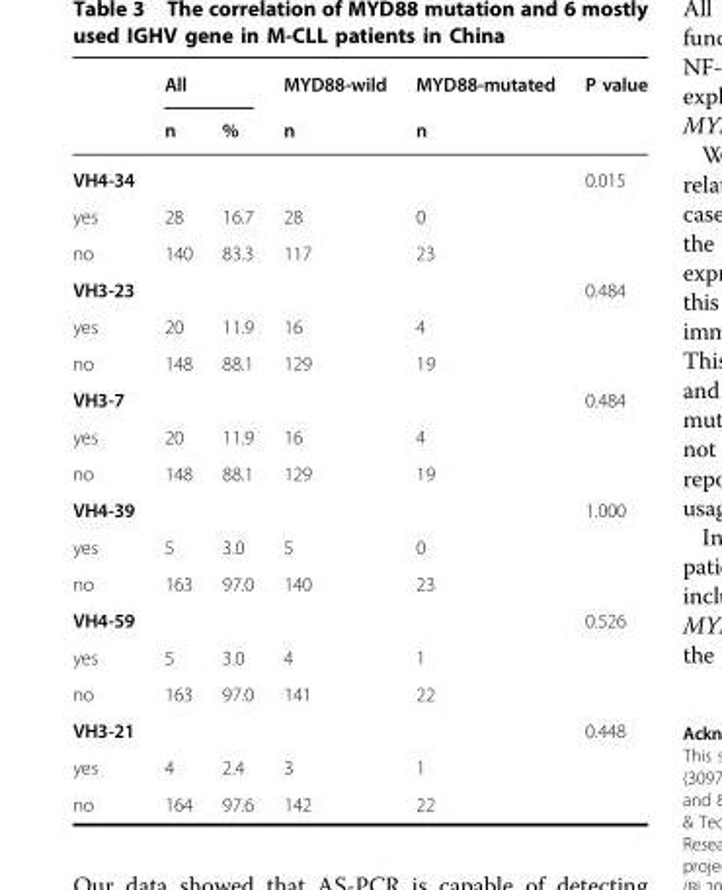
<table><thead><tr><td rowspan="2"></td><td colspan="2">All</td><td rowspan="2">MYD88-wild n</td><td rowspan="2">MYD88-mutated n</td><td rowspan="2">P value</td></tr><tr><td>n</td><td>%</td></tr></thead><tbody><tr><td>VH4-34</td><td></td><td></td><td></td><td></td><td>0.015</td></tr><tr><td>yes</td><td>28</td><td>16.7</td><td>28</td><td>0</td><td></td></tr><tr><td>no</td><td>140</td><td>83.3</td><td>117</td><td>23</td><td></td></tr><tr><td>VH3-23</td><td></td><td></td><td></td><td></td><td>0.484</td></tr><tr><td>yes</td><td>20</td><td>11.9</td><td>16</td><td>4</td><td></td></tr><tr><td>no</td><td>148</td><td>88.1</td><td>129</td><td>19</td><td></td></tr><tr><td>VH3-7</td><td></td><td></td><td></td><td></td><td>0.484</td></tr><tr><td>yes</td><td>20</td><td>11.9</td><td>16</td><td>4</td><td></td></tr><tr><td>no</td><td>148</td><td>88.1</td><td>129</td><td>19</td><td></td></tr><tr><td>VH4-39</td><td></td><td></td><td></td><td></td><td>1.000</td></tr><tr><td>yes</td><td>5</td><td>3.0</td><td>5</td><td>0</td><td></td></tr><tr><td>no</td><td>163</td><td>97.0</td><td>140</td><td>23</td><td></td></tr><tr><td>VH4-59</td><td></td><td></td><td></td><td></td><td>0.526</td></tr><tr><td>yes</td><td>5</td><td>3.0</td><td>4</td><td>1</td><td></td></tr><tr><td>no</td><td>163</td><td>97.0</td><td>141</td><td>22</td><td></td></tr><tr><td>VH3-21</td><td></td><td></td><td></td><td></td><td>0.448</td></tr><tr><td>yes</td><td>4</td><td>2.4</td><td>3</td><td>1</td><td></td></tr><tr><td>no</td><td>164</td><td>97.6</td><td>142</td><td>22</td><td></td></tr></tbody></table>